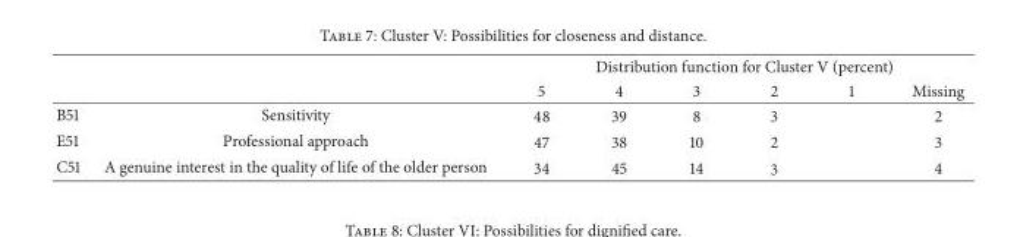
<table><thead><tr><td rowspan="2"></td><td rowspan="2"></td><td colspan="6">Distribution function for Cluster V (percent)</td></tr><tr><td>5</td><td>4</td><td>3</td><td>2</td><td>1</td><td>Missing</td></tr></thead><tbody><tr><td>B51</td><td>Sensitivity</td><td>48</td><td>39</td><td>8</td><td>3</td><td></td><td>2</td></tr><tr><td>E51</td><td>Professional approach</td><td>47</td><td>38</td><td>10</td><td>2</td><td></td><td>3</td></tr><tr><td>C51</td><td>A genuine interest in the quality of life of the older person</td><td>34</td><td>45</td><td>14</td><td>3</td><td></td><td>4</td></tr></tbody></table>